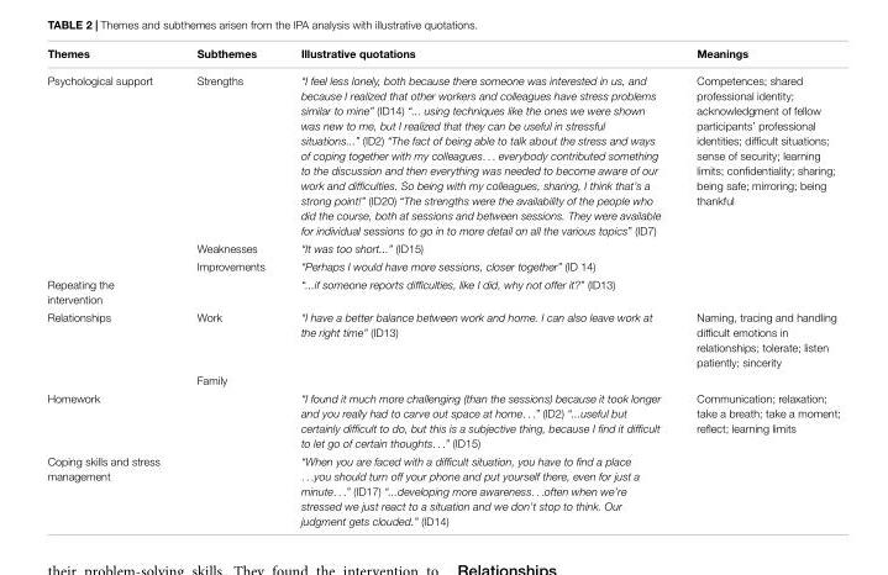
<table><thead><tr><td>Themes</td><td>Subthemes</td><td>Illustrative quotations</td><td>Meanings</td></tr></thead><tbody><tr><td rowspan="3">Psychological support</td><td>Strengths</td><td>“I feel less lonely, both because there someone was interested in us, and because I realized that other workers and colleagues have stress problems similar to mine” (ID14) “... using techniques like the ones we were shown was new to me, but I realized that they can be useful in stressful situations...” (ID2) “The fact of being able to talk about the stress and ways of coping together with my colleagues. . . everybody contributed something to the discussion and then everything was needed to become aware of our work and difficulties. So being with my colleagues, sharing, I think that’s a strong point!” (ID20) “The strengths were the availability of the people who did the course, both at sessions and between sessions. They were available for individual sessions to go in to more detail on all the various topics” (ID7)</td><td>Competences; shared professional identity; acknowledgment of fellow participants’ professional identities; difficult situations; sense of security; learning limits; confidentiality; sharing; being safe; mirroring; being thankful</td></tr><tr><td>Weaknesses</td><td>“It was too short...” (ID15)</td><td></td></tr><tr><td>Improvements</td><td>“Perhaps I would have more sessions, closer together” (ID 14)</td><td></td></tr><tr><td>Repeating the intervention</td><td></td><td>“...if someone reports difficulties, like I did, why not offer it?” (ID13)</td><td></td></tr><tr><td rowspan="2">Relationships</td><td>Work</td><td>“I have a better balance between work and home. I can also leave work at the right time” (ID13)</td><td>Naming, tracing and handling difficult emotions in relationships; tolerate; listen patiently; sincerity</td></tr><tr><td>Family</td><td></td><td></td></tr><tr><td>Homework</td><td></td><td>“I found it much more challenging (than the sessions) because it took longer and you really had to carve out space at home. . .” (ID2) “...useful but certainly difficult to do, but this is a subjective thing, because I find it difficult to let go of certain thoughts. . .” (ID15)</td><td>Communication; relaxation; take a breath; take a moment; reflect; learning limits</td></tr><tr><td>Coping skills and stress management</td><td></td><td>“When you are faced with a difficult situation, you have to find a place . . .you should turn off your phone and put yourself there, even for just a minute. . .” (ID17) “...developing more awareness. . .often when we’re stressed we just react to a situation and we don’t stop to think. Our judgment gets clouded.” (ID14)</td><td></td></tr></tbody></table>